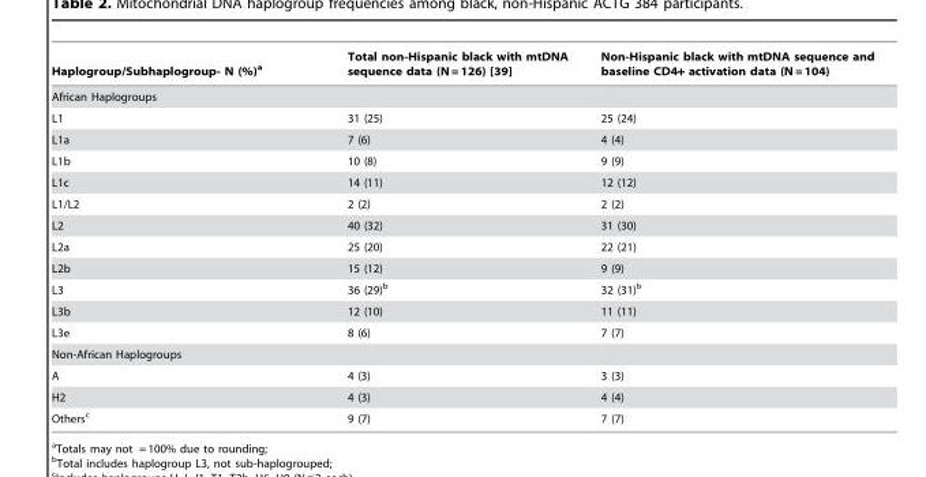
<table><thead><tr><td>Haplogroup/Subhaplogroup- N (%)<sup>a</sup></td><td>Total non-Hispanic black with mtDNA sequence data (N = 126) [39]</td><td>Non-Hispanic black with mtDNA sequence and baseline CD4+ activation data (N = 104)</td></tr></thead><tbody><tr><td colspan="3">African Haplogroups</td></tr><tr><td>L1</td><td>31 (25)</td><td>25 (24)</td></tr><tr><td>L1a</td><td>7 (6)</td><td>4 (4)</td></tr><tr><td>L1b</td><td>10 (8)</td><td>9 (9)</td></tr><tr><td>L1c</td><td>14 (11)</td><td>12 (12)</td></tr><tr><td>L1/L2</td><td>2 (2)</td><td>2 (2)</td></tr><tr><td>L2</td><td>40 (32)</td><td>31 (30)</td></tr><tr><td>L2a</td><td>25 (20)</td><td>22 (21)</td></tr><tr><td>L2b</td><td>15 (12)</td><td>9 (9)</td></tr><tr><td>L3</td><td>36 (29)<sup>b</sup></td><td>32 (31)<sup>b</sup></td></tr><tr><td>L3b</td><td>12 (10)</td><td>11 (11)</td></tr><tr><td>L3e</td><td>8 (6)</td><td>7 (7)</td></tr><tr><td colspan="3">Non-African Haplogroups</td></tr><tr><td>A</td><td>4 (3)</td><td>3 (3)</td></tr><tr><td>H2</td><td>4 (3)</td><td>4 (4)</td></tr><tr><td>Others<sup>c</sup></td><td>9 (7)</td><td>7 (7)</td></tr></tbody></table>